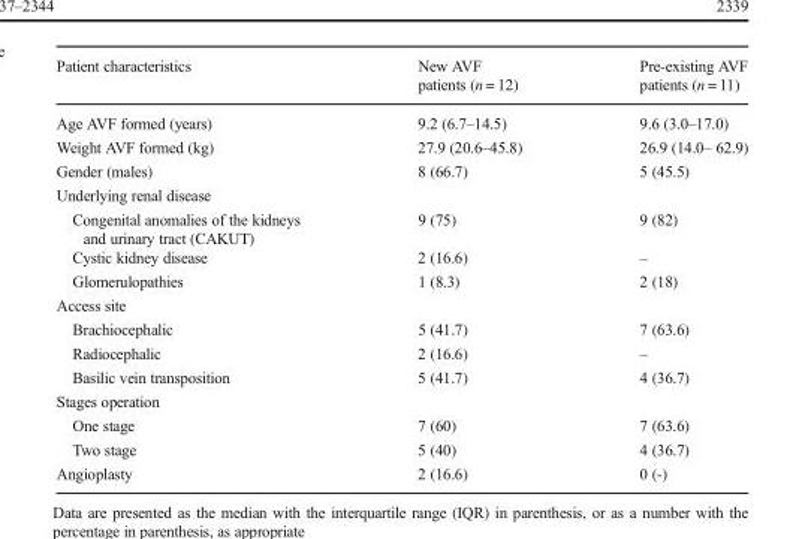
<table><thead><tr><td>Patient characteristics</td><td>New AVF patients (n = 12)</td><td>Pre-existing AVF patients (n = 11)</td></tr></thead><tbody><tr><td>Age AVF formed (years)</td><td>9.2 (6.7–14.5)</td><td>9.6 (3.0–17.0)</td></tr><tr><td>Weight AVF formed (kg)</td><td>27.9 (20.6–45.8)</td><td>26.9 (14.0– 62.9)</td></tr><tr><td>Gender (males)</td><td>8 (66.7)</td><td>5 (45.5)</td></tr><tr><td colspan="3">Underlying renal disease</td></tr><tr><td>Congenital anomalies of the kidneys and urinary tract (CAKUT)</td><td>9 (75)</td><td>9 (82)</td></tr><tr><td>Cystic kidney disease</td><td>2 (16.6)</td><td>–</td></tr><tr><td>Glomerulopathies</td><td>1 (8.3)</td><td>2 (18)</td></tr><tr><td colspan="3">Access site</td></tr><tr><td>Brachiocephalic</td><td>5 (41.7)</td><td>7 (63.6)</td></tr><tr><td>Radiocephalic</td><td>2 (16.6)</td><td>–</td></tr><tr><td>Basilic vein transposition</td><td>5 (41.7)</td><td>4 (36.7)</td></tr><tr><td colspan="3">Stages operation</td></tr><tr><td>One stage</td><td>7 (60)</td><td>7 (63.6)</td></tr><tr><td>Two stage</td><td>5 (40)</td><td>4 (36.7)</td></tr><tr><td>Angioplasty</td><td>2 (16.6)</td><td>0 (-)</td></tr></tbody></table>